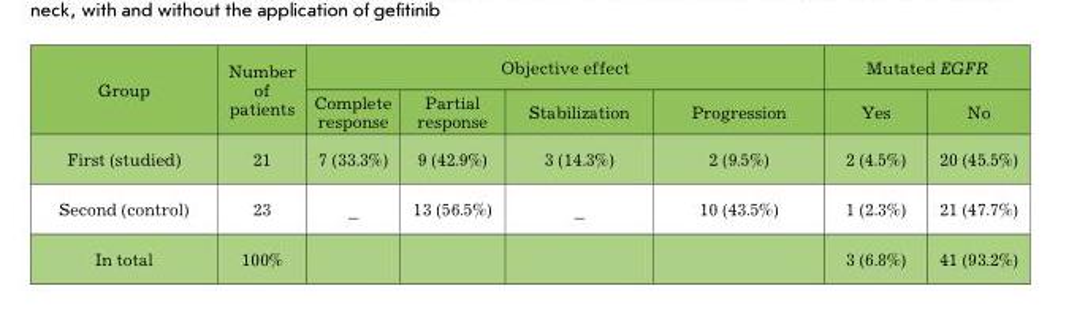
<table><thead><tr><td rowspan="2">Group</td><td rowspan="2">number of patients</td><td colspan="4">Objective effect</td><td colspan="2">Mutated EGFR</td></tr><tr><td>complete response</td><td>Partial response</td><td>Stabilization</td><td>Progression</td><td>Yes</td><td>no</td></tr></thead><tbody><tr><td>First (studied)</td><td>21</td><td>7 (33.3%)</td><td>9 (42.9%)</td><td>3 (14.3%)</td><td>2 (9.5%)</td><td>2 (4.5%)</td><td>20 (45.5%)</td></tr><tr><td>Second (control)</td><td>23</td><td>_</td><td>13 (56.5%)</td><td>_</td><td>10 (43.5%)</td><td>1 (2.3%)</td><td>21 (47.7%)</td></tr><tr><td>In total</td><td>100%</td><td></td><td></td><td></td><td></td><td>3 (6.8%)</td><td>41 (93.2%)</td></tr></tbody></table>